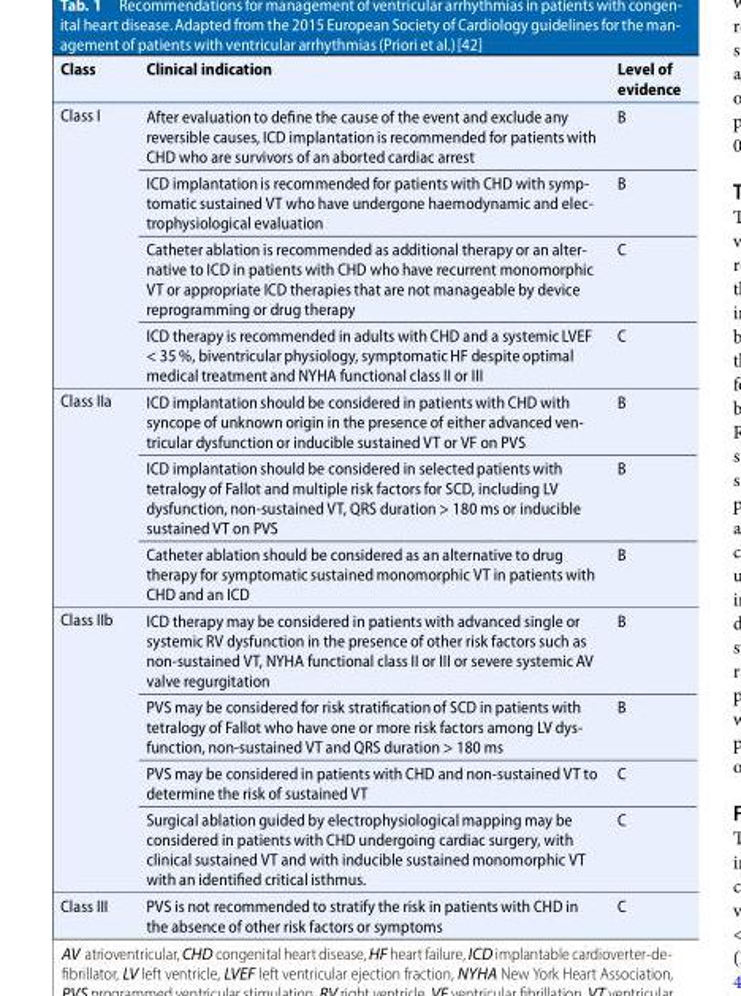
<table><thead><tr><td>Class</td><td>Clinical indication</td><td>Level of evidence</td></tr></thead><tbody><tr><td rowspan="4">Class I</td><td>After evaluation to define the cause of the event and exclude any reversible causes, ICD implantation is recommended for patients with CHD who are survivors of an aborted cardiac arrest</td><td>B</td></tr><tr><td>ICD implantationis recommended for patients with CHD with symp- tomatic sustained VT who have undergone haemodynamic and elec- trophysiological evaluation</td><td>B</td></tr><tr><td>Catheter ablation is recommended as additional therapy or an alter- native to ICD in patients with CHD who have recurrent monomorphic VT or appropriate ICD therapies that are not manageable by device reprogramming or drug therapy</td><td>C</td></tr><tr><td>ICD therapy is recommended in adults with CHD and a systemicLVEF &lt; 35 %, biventricular physiology, symptomaticHF despite optimal medical treatment and NYHA functional class II or III</td><td>C</td></tr><tr><td rowspan="3">Class IIa</td><td>ICD implantationshould be considered in patients with CHD with syncope of unknown origin in the presence of either advanced ven- tricular dysfunction or inducible sustained VT or VF on PVS</td><td>B</td></tr><tr><td>ICD implantationshould be considered in selectedpatients with tetralogy of Fallot and multiple risk factors for SCD, including LV dysfunction, non-sustained VT, QRS duration &gt; 180 ms or inducible sustained VT on PVS</td><td>B</td></tr><tr><td>Catheter ablation should be considered as an alternative to drug therapy for symptomaticsustained monomorphic VT in patients with CHD and an ICD</td><td>B</td></tr><tr><td rowspan="4">Class IIb</td><td>ICD therapy may be considered in patients with advanced single or systemicRV dysfunction in the presence of other risk factors such as non-sustained VT, NYHA functional class II or III or severe systemic AV valve regurgitation</td><td>B</td></tr><tr><td>PVS may be considered for risk stratificationof SCD in patients with tetralogy of Fallot who have one or more risk factors among LV dys- function, non-sustained VT and QRS duration &gt; 180 ms</td><td>B</td></tr><tr><td>PVS may be considered in patients with CHD and non-sustained VT to determine the risk of sustained VT</td><td>C</td></tr><tr><td>Surgical ablation guided by electrophysiological mapping may be considered in patients with CHD undergoing cardiac surgery, with clinical sustained VT and with inducible sustained monomorphic VT with an identified critical isthmus.</td><td>C</td></tr><tr><td>Class III</td><td>PVS is not recommended to stratify the risk in patients with CHD in the absence of other risk factors or symptoms</td><td>C</td></tr></tbody></table>